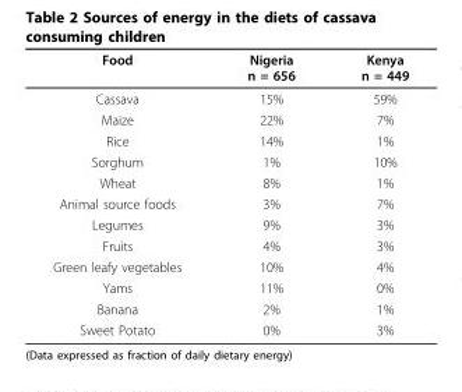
<table><thead><tr><td>Food</td><td>Nigeria n = 656</td><td>Kenya n = 449</td></tr></thead><tbody><tr><td>Cassava</td><td>15%</td><td>59%</td></tr><tr><td>Maize</td><td>22%</td><td>7%</td></tr><tr><td>Rice</td><td>14%</td><td>1%</td></tr><tr><td>Sorghum</td><td>1%</td><td>10%</td></tr><tr><td>Wheat</td><td>8%</td><td>1%</td></tr><tr><td>Animal source foods</td><td>3%</td><td>7%</td></tr><tr><td>Legumes</td><td>9%</td><td>3%</td></tr><tr><td>Fruits</td><td>4%</td><td>3%</td></tr><tr><td>Green leafy vegetables</td><td>10%</td><td>4%</td></tr><tr><td>Yams</td><td>11%</td><td>0%</td></tr><tr><td>Banana</td><td>2%</td><td>1%</td></tr><tr><td>Sweet Potato</td><td>0%</td><td>3%</td></tr></tbody></table>